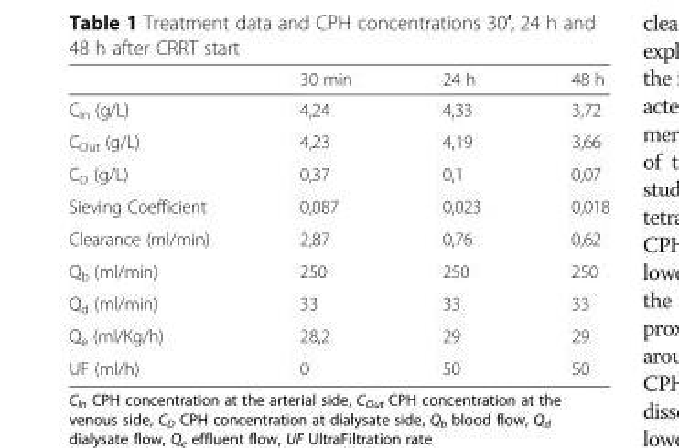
<table><thead><tr><td></td><td>30 min</td><td>24 h</td><td>48 h</td></tr></thead><tbody><tr><td>C<sub>In</sub> (g/L)</td><td>4,24</td><td>4,33</td><td>3,72</td></tr><tr><td>C<sub>Out</sub> (g/L)</td><td>4,23</td><td>4,19</td><td>3,66</td></tr><tr><td>C<sub>D</sub> (g/L)</td><td>0,37</td><td>0,1</td><td>0,07</td></tr><tr><td>Sieving Coefficient</td><td>0,087</td><td>0,023</td><td>0,018</td></tr><tr><td>Clearance (ml/min)</td><td>2,87</td><td>0,76</td><td>0,62</td></tr><tr><td>Q<sub>b</sub> (ml/min)</td><td>250</td><td>250</td><td>250</td></tr><tr><td>Q<sub>d</sub> (ml/min)</td><td>33</td><td>33</td><td>33</td></tr><tr><td>Q<sub>e</sub> (ml/Kg/h)</td><td>28,2</td><td>29</td><td>29</td></tr><tr><td>UF (ml/h)</td><td>0</td><td>50</td><td>50</td></tr></tbody></table>